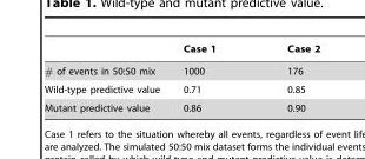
<table><thead><tr><td></td><td>Case 1</td><td>Case 2</td></tr></thead><tbody><tr><td># of events in 50:50 mix</td><td>1000</td><td>176</td></tr><tr><td>Wild-type predictive value</td><td>0.71</td><td>0.85</td></tr><tr><td>Mutant predictive value</td><td>0.86</td><td>0.90</td></tr></tbody></table>